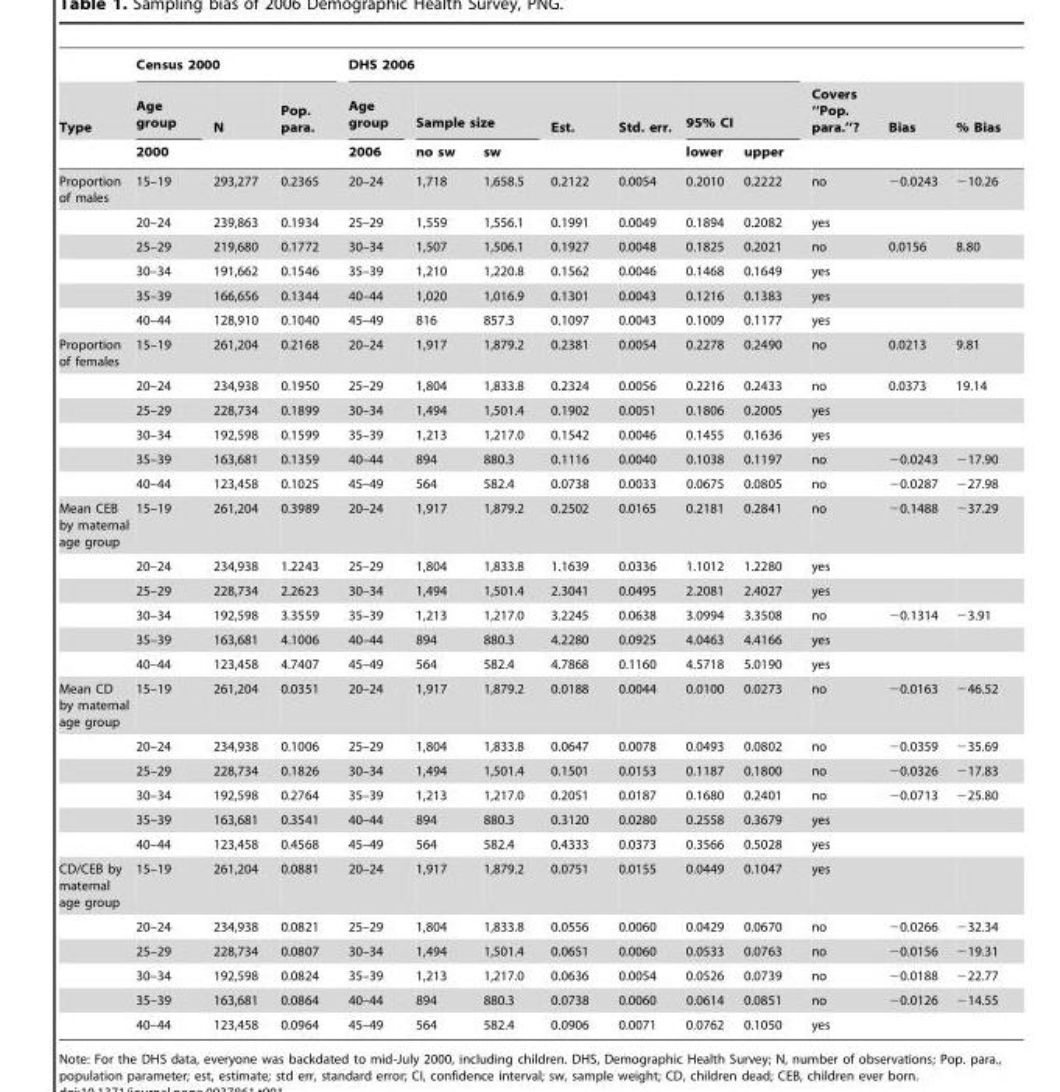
<table><thead><tr><td rowspan="3">Type</td><td colspan="3">Census 2000</td><td colspan="7">DHS 2006</td><td rowspan="3">Covers ‘‘Pop. para.’’?</td><td rowspan="3">Bias</td><td rowspan="3">% Bias</td></tr><tr><td rowspan="2">Age group 2000</td><td rowspan="2">N</td><td rowspan="2">Pop. para.</td><td rowspan="2">Age group 2006</td><td colspan="2">Sample size</td><td rowspan="2">Est.</td><td rowspan="2">Std. err.</td><td colspan="2">95% CI</td></tr><tr><td>no sw</td><td>sw</td><td>lower</td><td>upper</td></tr></thead><tbody><tr><td rowspan="6">Proportion of males</td><td>15–19</td><td>293,277</td><td>0.2365</td><td>20–24</td><td>1,718</td><td>1,658.5</td><td>0.2122</td><td>0.0054</td><td>0.2010</td><td>0.2222</td><td>no</td><td>−0.0243</td><td>−10.26</td></tr><tr><td>20–24</td><td>239,863</td><td>0.1934</td><td>25–29</td><td>1,559</td><td>1,556.1</td><td>0.1991</td><td>0.0049</td><td>0.1894</td><td>0.2082</td><td>yes</td><td></td><td></td></tr><tr><td>25–29</td><td>219,680</td><td>0.1772</td><td>30–34</td><td>1,507</td><td>1,506.1</td><td>0.1927</td><td>0.0048</td><td>0.1825</td><td>0.2021</td><td>no</td><td>0.0156</td><td>8.80</td></tr><tr><td>30–34</td><td>191,662</td><td>0.1546</td><td>35–39</td><td>1,210</td><td>1,220.8</td><td>0.1562</td><td>0.0046</td><td>0.1468</td><td>0.1649</td><td>yes</td><td></td><td></td></tr><tr><td>35–39</td><td>166,656</td><td>0.1344</td><td>40–44</td><td>1,020</td><td>1,016.9</td><td>0.1301</td><td>0.0043</td><td>0.1216</td><td>0.1383</td><td>yes</td><td></td><td></td></tr><tr><td>40–44</td><td>128,910</td><td>0.1040</td><td>45–49</td><td>816</td><td>857.3</td><td>0.1097</td><td>0.0043</td><td>0.1009</td><td>0.1177</td><td>yes</td><td></td><td></td></tr><tr><td rowspan="6">Proportion of females</td><td>15–19</td><td>261,204</td><td>0.2168</td><td>20–24</td><td>1,917</td><td>1,879.2</td><td>0.2381</td><td>0.0054</td><td>0.2278</td><td>0.2490</td><td>no</td><td>0.0213</td><td>9.81</td></tr><tr><td>20–24</td><td>234,938</td><td>0.1950</td><td>25–29</td><td>1,804</td><td>1,833.8</td><td>0.2324</td><td>0.0056</td><td>0.2216</td><td>0.2433</td><td>no</td><td>0.0373</td><td>19.14</td></tr><tr><td>25–29</td><td>228,734</td><td>0.1899</td><td>30–34</td><td>1,494</td><td>1,501.4</td><td>0.1902</td><td>0.0051</td><td>0.1806</td><td>0.2005</td><td>yes</td><td></td><td></td></tr><tr><td>30–34</td><td>192,598</td><td>0.1599</td><td>35–39</td><td>1,213</td><td>1,217.0</td><td>0.1542</td><td>0.0046</td><td>0.1455</td><td>0.1636</td><td>yes</td><td></td><td></td></tr><tr><td>35–39</td><td>163,681</td><td>0.1359</td><td>40–44</td><td>894</td><td>880.3</td><td>0.1116</td><td>0.0040</td><td>0.1038</td><td>0.1197</td><td>no</td><td>−0.0243</td><td>−17.90</td></tr><tr><td>40–44</td><td>123,458</td><td>0.1025</td><td>45–49</td><td>564</td><td>582.4</td><td>0.0738</td><td>0.0033</td><td>0.0675</td><td>0.0805</td><td>no</td><td>−0.0287</td><td>−27.98</td></tr><tr><td rowspan="6">Mean CEB by maternal age group</td><td>15–19</td><td>261,204</td><td>0.3989</td><td>20–24</td><td>1,917</td><td>1,879.2</td><td>0.2502</td><td>0.0165</td><td>0.2181</td><td>0.2841</td><td>no</td><td>−0.1488</td><td>−37.29</td></tr><tr><td>20–24</td><td>234,938</td><td>1.2243</td><td>25–29</td><td>1,804</td><td>1,833.8</td><td>1.1639</td><td>0.0336</td><td>1.1012</td><td>1.2280</td><td>yes</td><td></td><td></td></tr><tr><td>25–29</td><td>228,734</td><td>2.2623</td><td>30–34</td><td>1,494</td><td>1,501.4</td><td>2.3041</td><td>0.0495</td><td>2.2081</td><td>2.4027</td><td>yes</td><td></td><td></td></tr><tr><td>30–34</td><td>192,598</td><td>3.3559</td><td>35–39</td><td>1,213</td><td>1,217.0</td><td>3.2245</td><td>0.0638</td><td>3.0994</td><td>3.3508</td><td>no</td><td>−0.1314</td><td>−3.91</td></tr><tr><td>35–39</td><td>163,681</td><td>4.1006</td><td>40–44</td><td>894</td><td>880.3</td><td>4.2280</td><td>0.0925</td><td>4.0463</td><td>4.4166</td><td>yes</td><td></td><td></td></tr><tr><td>40–44</td><td>123,458</td><td>4.7407</td><td>45–49</td><td>564</td><td>582.4</td><td>4.7868</td><td>0.1160</td><td>4.5718</td><td>5.0190</td><td>yes</td><td></td><td></td></tr><tr><td rowspan="6">Mean CD by maternal age group</td><td>15–19</td><td>261,204</td><td>0.0351</td><td>20–24</td><td>1,917</td><td>1,879.2</td><td>0.0188</td><td>0.0044</td><td>0.0100</td><td>0.0273</td><td>no</td><td>−0.0163</td><td>−46.52</td></tr><tr><td>20–24</td><td>234,938</td><td>0.1006</td><td>25–29</td><td>1,804</td><td>1,833.8</td><td>0.0647</td><td>0.0078</td><td>0.0493</td><td>0.0802</td><td>no</td><td>−0.0359</td><td>−35.69</td></tr><tr><td>25–29</td><td>228,734</td><td>0.1826</td><td>30–34</td><td>1,494</td><td>1,501.4</td><td>0.1501</td><td>0.0153</td><td>0.1187</td><td>0.1800</td><td>no</td><td>−0.0326</td><td>−17.83</td></tr><tr><td>30–34</td><td>192,598</td><td>0.2764</td><td>35–39</td><td>1,213</td><td>1,217.0</td><td>0.2051</td><td>0.0187</td><td>0.1680</td><td>0.2401</td><td>no</td><td>−0.0713</td><td>−25.80</td></tr><tr><td>35–39</td><td>163,681</td><td>0.3541</td><td>40–44</td><td>894</td><td>880.3</td><td>0.3120</td><td>0.0280</td><td>0.2558</td><td>0.3679</td><td>yes</td><td></td><td></td></tr><tr><td>40–44</td><td>123,458</td><td>0.4568</td><td>45–49</td><td>564</td><td>582.4</td><td>0.4333</td><td>0.0373</td><td>0.3566</td><td>0.5028</td><td>yes</td><td></td><td></td></tr><tr><td rowspan="6">CD/CEB by maternal age group</td><td>15–19</td><td>261,204</td><td>0.0881</td><td>20–24</td><td>1,917</td><td>1,879.2</td><td>0.0751</td><td>0.0155</td><td>0.0449</td><td>0.1047</td><td>yes</td><td></td><td></td></tr><tr><td>20–24</td><td>234,938</td><td>0.0821</td><td>25–29</td><td>1,804</td><td>1,833.8</td><td>0.0556</td><td>0.0060</td><td>0.0429</td><td>0.0670</td><td>no</td><td>−0.0266</td><td>−32.34</td></tr><tr><td>25–29</td><td>228,734</td><td>0.0807</td><td>30–34</td><td>1,494</td><td>1,501.4</td><td>0.0651</td><td>0.0060</td><td>0.0533</td><td>0.0763</td><td>no</td><td>−0.0156</td><td>−19.31</td></tr><tr><td>30–34</td><td>192,598</td><td>0.0824</td><td>35–39</td><td>1,213</td><td>1,217.0</td><td>0.0636</td><td>0.0054</td><td>0.0526</td><td>0.0739</td><td>no</td><td>−0.0188</td><td>−22.77</td></tr><tr><td>35–39</td><td>163,681</td><td>0.0864</td><td>40–44</td><td>894</td><td>880.3</td><td>0.0738</td><td>0.0060</td><td>0.0614</td><td>0.0851</td><td>no</td><td>−0.0126</td><td>−14.55</td></tr><tr><td>40–44</td><td>123,458</td><td>0.0964</td><td>45–49</td><td>564</td><td>582.4</td><td>0.0906</td><td>0.0071</td><td>0.0762</td><td>0.1050</td><td>yes</td><td></td><td></td></tr></tbody></table>